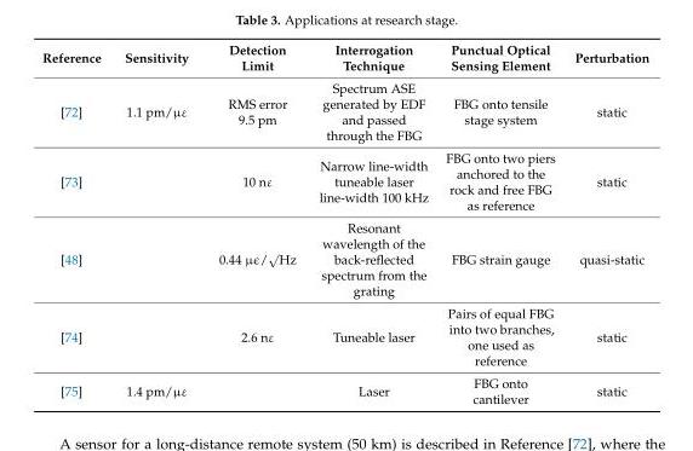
<table><thead><tr><td>Reference</td><td>Sensitivity</td><td>Detection Limit</td><td>Interrogation Technique</td><td>Punctual Optical Sensing Element</td><td>Perturbation</td></tr></thead><tbody><tr><td>[72]</td><td>1.1 pm/µε</td><td>RMS error 9.5 pm</td><td>Spectrum ASE generated by EDF and passed through the FBG</td><td>FBG onto tensile stage system</td><td>static</td></tr><tr><td>[73]</td><td></td><td>10 nε</td><td>Narrow line-width tuneable laser line-width 100 kHz</td><td>FBG onto two piers anchored to the rock and free FBG as reference</td><td>static</td></tr><tr><td>[48]</td><td></td><td>0.44 µϵ/√Hz</td><td>Resonant wavelength of the back-reflected spectrum from the grating</td><td>FBG strain gauge</td><td>quasi-static</td></tr><tr><td>[74]</td><td></td><td>2.6 nε</td><td>Tuneable laser</td><td>Pairs of equal FBG into two branches, one used as reference</td><td>static</td></tr><tr><td>[75]</td><td>1.4 pm/µε</td><td></td><td>Laser</td><td>FBG onto cantilever</td><td>static</td></tr></tbody></table>